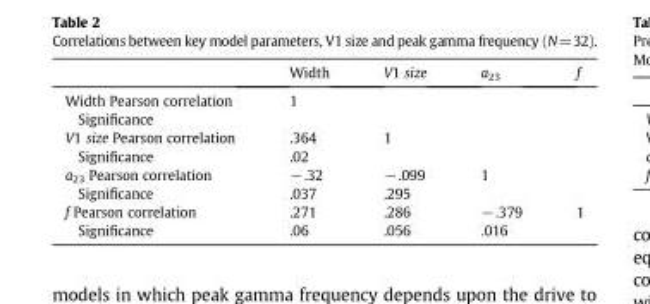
<table><thead><tr><td></td><td>Width</td><td>V1 size</td><td>a<sub>23</sub></td><td>f</td></tr></thead><tbody><tr><td>Width Pearson correlation Significance</td><td>1</td><td></td><td></td><td></td></tr><tr><td>V1 size Pearson correlation Significance</td><td>.364 .02</td><td>1</td><td></td><td></td></tr><tr><td>a<sub>23</sub> Pearson correlation Significance</td><td>−.32 .037</td><td>−.099 .295</td><td>1</td><td></td></tr><tr><td>f Pearson correlation Significance</td><td>.271 .06</td><td>.286 .056</td><td>−.379 .016</td><td>1</td></tr></tbody></table>